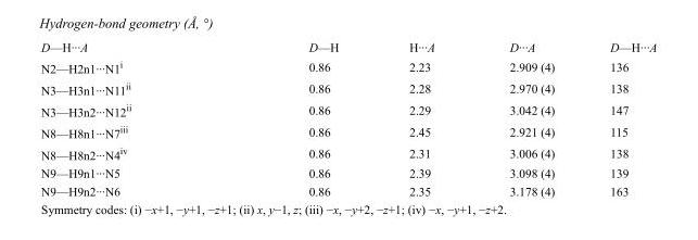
<table><tbody><tr><td>D—H···A</td><td>D—H</td><td>H···A</td><td>D···A</td><td>D—H···A</td></tr><tr><td>N2—H2n1···N1<sup>i</sup></td><td>0.86</td><td>2.23</td><td>2.909 (4)</td><td>136</td></tr><tr><td>N3—H3n1···N11<sup>ii</sup></td><td>0.86</td><td>2.28</td><td>2.970 (4)</td><td>138</td></tr><tr><td>N3—H3n2···N12<sup>ii</sup></td><td>0.86</td><td>2.29</td><td>3.042 (4)</td><td>147</td></tr><tr><td>N8—H8n1···N7<sup>iii</sup></td><td>0.86</td><td>2.45</td><td>2.921 (4)</td><td>115</td></tr><tr><td>N8—H8n2···N4<sup>iv</sup></td><td>0.86</td><td>2.31</td><td>3.006 (4)</td><td>138</td></tr><tr><td>N9—H9n1···N5</td><td>0.86</td><td>2.39</td><td>3.098 (4)</td><td>139</td></tr><tr><td>N9—H9n2···N6</td><td>0.86</td><td>2.35</td><td>3.178 (4)</td><td>163</td></tr></tbody></table>